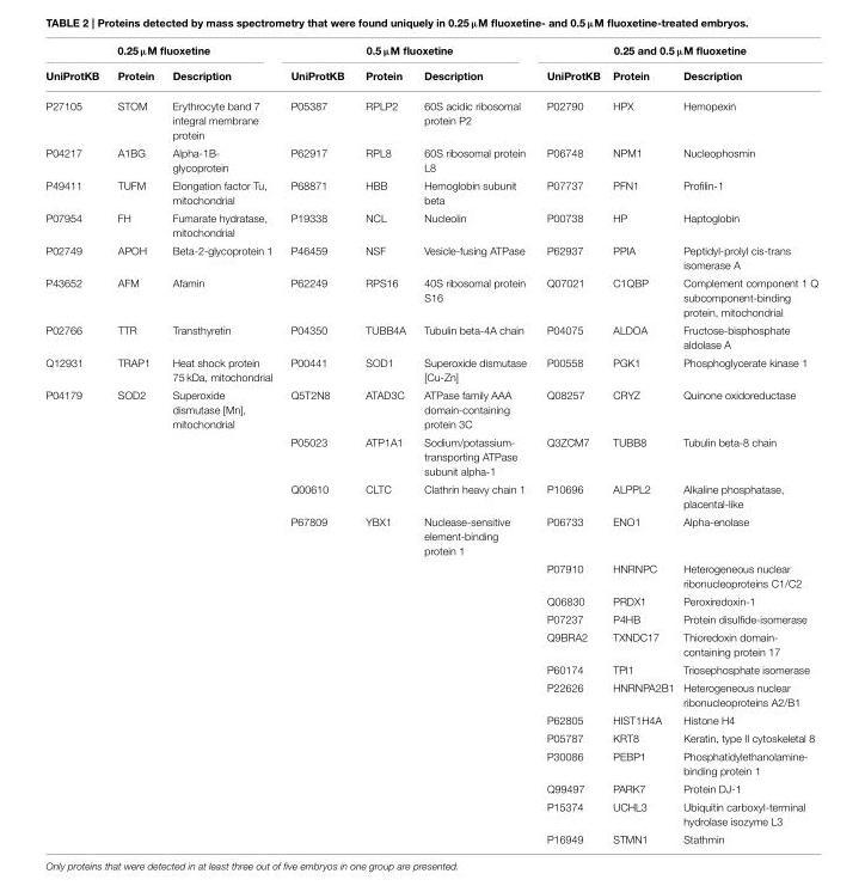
<table><thead><tr><td colspan="3">0.25 µM fluoxetine</td><td colspan="3">0.5 µM fluoxetine</td><td colspan="3">0.25 and 0.5 µM fluoxetine</td></tr><tr><td>UniProtKB</td><td>Protein</td><td>Description</td><td>UniProtKB</td><td>Protein</td><td>Description</td><td>UniProtKB</td><td>Protein</td><td>Description</td></tr></thead><tbody><tr><td>P27105</td><td>STOM</td><td>Erythrocyte band 7 integral membrane protein</td><td>P05387</td><td>RPLP2</td><td>60S acidic ribosomal protein P2</td><td>P02790</td><td>HPX</td><td>Hemopexin</td></tr><tr><td>P04217</td><td>A1BG</td><td>Alpha-1B- glycoprotein</td><td>P62917</td><td>RPL8</td><td>60S ribosomal protein L8</td><td>P06748</td><td>NPM1</td><td>Nucleophosmin</td></tr><tr><td>P49411</td><td>TUFM</td><td>Elongation factor Tu, mitochondrial</td><td>P68871</td><td>HBB</td><td>Hemoglobin subunit beta</td><td>P07737</td><td>PFN1</td><td>Profilin-1</td></tr><tr><td>P07954</td><td>FH</td><td>Fumarate hydratase, mitochondrial</td><td>P19338</td><td>NCL</td><td>Nucleolin</td><td>P00738</td><td>HP</td><td>Haptoglobin</td></tr><tr><td>P02749</td><td>APOH</td><td>Beta-2-glycoprotein 1</td><td>P46459</td><td>NSF</td><td>Vesicle-fusing ATPase</td><td>P62937</td><td>PPIA</td><td>Peptidyl-prolyl cis-trans isomerase A</td></tr><tr><td>P43652</td><td>AFM</td><td>Afamin</td><td>P62249</td><td>RPS16</td><td>40S ribosomal protein S16</td><td>Q07021</td><td>C1QBP</td><td>Complement component 1 Q subcomponent-binding protein, mitochondrial</td></tr><tr><td>P02766</td><td>TTR</td><td>Transthyretin</td><td>P04350</td><td>TUBB4A</td><td>Tubulin beta-4A chain</td><td>P04075</td><td>ALDOA</td><td>Fructose-bisphosphate aldolase A</td></tr><tr><td>Q12931</td><td>TRAP1</td><td>Heat shock protein 75 kDa, mitochondrial</td><td>P00441</td><td>SOD1</td><td>Superoxide dismutase [Cu-Zn]</td><td>P00558</td><td>PGK1</td><td>Phosphoglycerate kinase 1</td></tr><tr><td rowspan="16">P04179</td><td>SOD2</td><td>Superoxide dismutase [Mn], mitochondrial</td><td>Q5T2N8</td><td>ATAD3C</td><td>ATPase family AAA domain-containing protein 3C</td><td>Q08257</td><td>CRYZ</td><td>Quinone oxidoreductase</td></tr><tr><td></td><td></td><td>P05023</td><td>ATP1A1</td><td>Sodium/potassium- transporting ATPase subunit alpha-1</td><td>Q3ZCM7</td><td>TUBB8</td><td>Tubulin beta-8 chain</td></tr><tr><td></td><td></td><td>Q00610</td><td>CLTC</td><td>Clathrin heavy chain 1</td><td>P10696</td><td>ALPPL2</td><td>Alkaline phosphatase, placental-like</td></tr><tr><td></td><td></td><td>P67809</td><td>YBX1</td><td>Nuclease-sensitive element-binding protein 1</td><td>P06733</td><td>ENO1</td><td>Alpha-enolase</td></tr><tr><td></td><td></td><td></td><td></td><td></td><td>P07910</td><td>HNRNPC</td><td>Heterogeneous nuclear ribonucleoproteins C1/C2</td></tr><tr><td></td><td></td><td></td><td></td><td></td><td>Q06830</td><td>PRDX1</td><td>Peroxiredoxin-1</td></tr><tr><td></td><td></td><td></td><td></td><td></td><td>P07237</td><td>P4HB</td><td>Protein disulfide-isomerase</td></tr><tr><td></td><td></td><td></td><td></td><td></td><td>Q9BRA2</td><td>TXNDC17</td><td>Thioredoxin domain- containing protein 17</td></tr><tr><td></td><td></td><td></td><td></td><td></td><td>P60174</td><td>TPI1</td><td>Triosephosphate isomerase</td></tr><tr><td></td><td></td><td></td><td></td><td></td><td>P22626</td><td>HNRNPA2B1</td><td>Heterogeneous nuclear ribonucleoproteins A2/B1</td></tr><tr><td></td><td></td><td></td><td></td><td></td><td>P62805</td><td>HIST1H4A</td><td>Histone H4</td></tr><tr><td></td><td></td><td></td><td></td><td></td><td>P05787</td><td>KRT8</td><td>Keratin, type II cytoskeletal 8</td></tr><tr><td></td><td></td><td></td><td></td><td></td><td>P30086</td><td>PEBP1</td><td>Phosphatidylethanolamine- binding protein 1</td></tr><tr><td></td><td></td><td></td><td></td><td></td><td>Q99497</td><td>PARK7</td><td>Protein DJ-1</td></tr><tr><td></td><td></td><td></td><td></td><td></td><td>P15374</td><td>UCHL3</td><td>Ubiquitin carboxyl-terminal hydrolase isozyme L3</td></tr><tr><td></td><td></td><td></td><td></td><td></td><td>P16949</td><td>STMN1</td><td>Stathmin</td></tr></tbody></table>